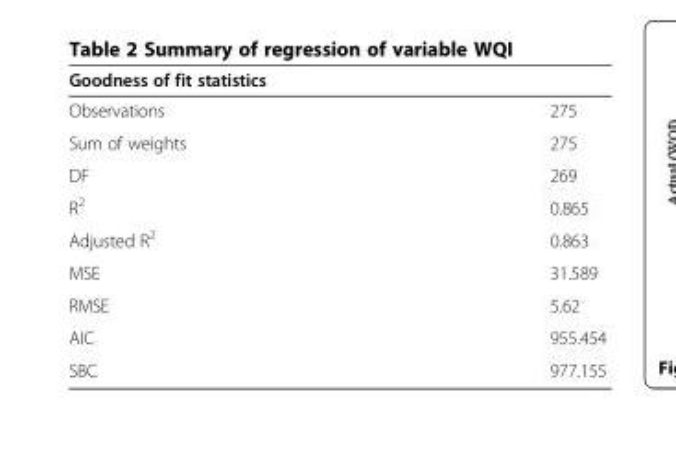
<table><thead><tr><td colspan="2">Goodness of fit statistics</td></tr><tr><td>Observations</td><td>275</td></tr></thead><tbody><tr><td>Sum of weights</td><td>275</td></tr><tr><td>DF</td><td>269</td></tr><tr><td>R<sup>2</sup></td><td>0.865</td></tr><tr><td>Adjusted R<sup>2</sup></td><td>0.863</td></tr><tr><td>MSE</td><td>31.589</td></tr><tr><td>RMSE</td><td>5.62</td></tr><tr><td>AIC</td><td>955.454</td></tr><tr><td>SBC</td><td>977.155</td></tr></tbody></table>